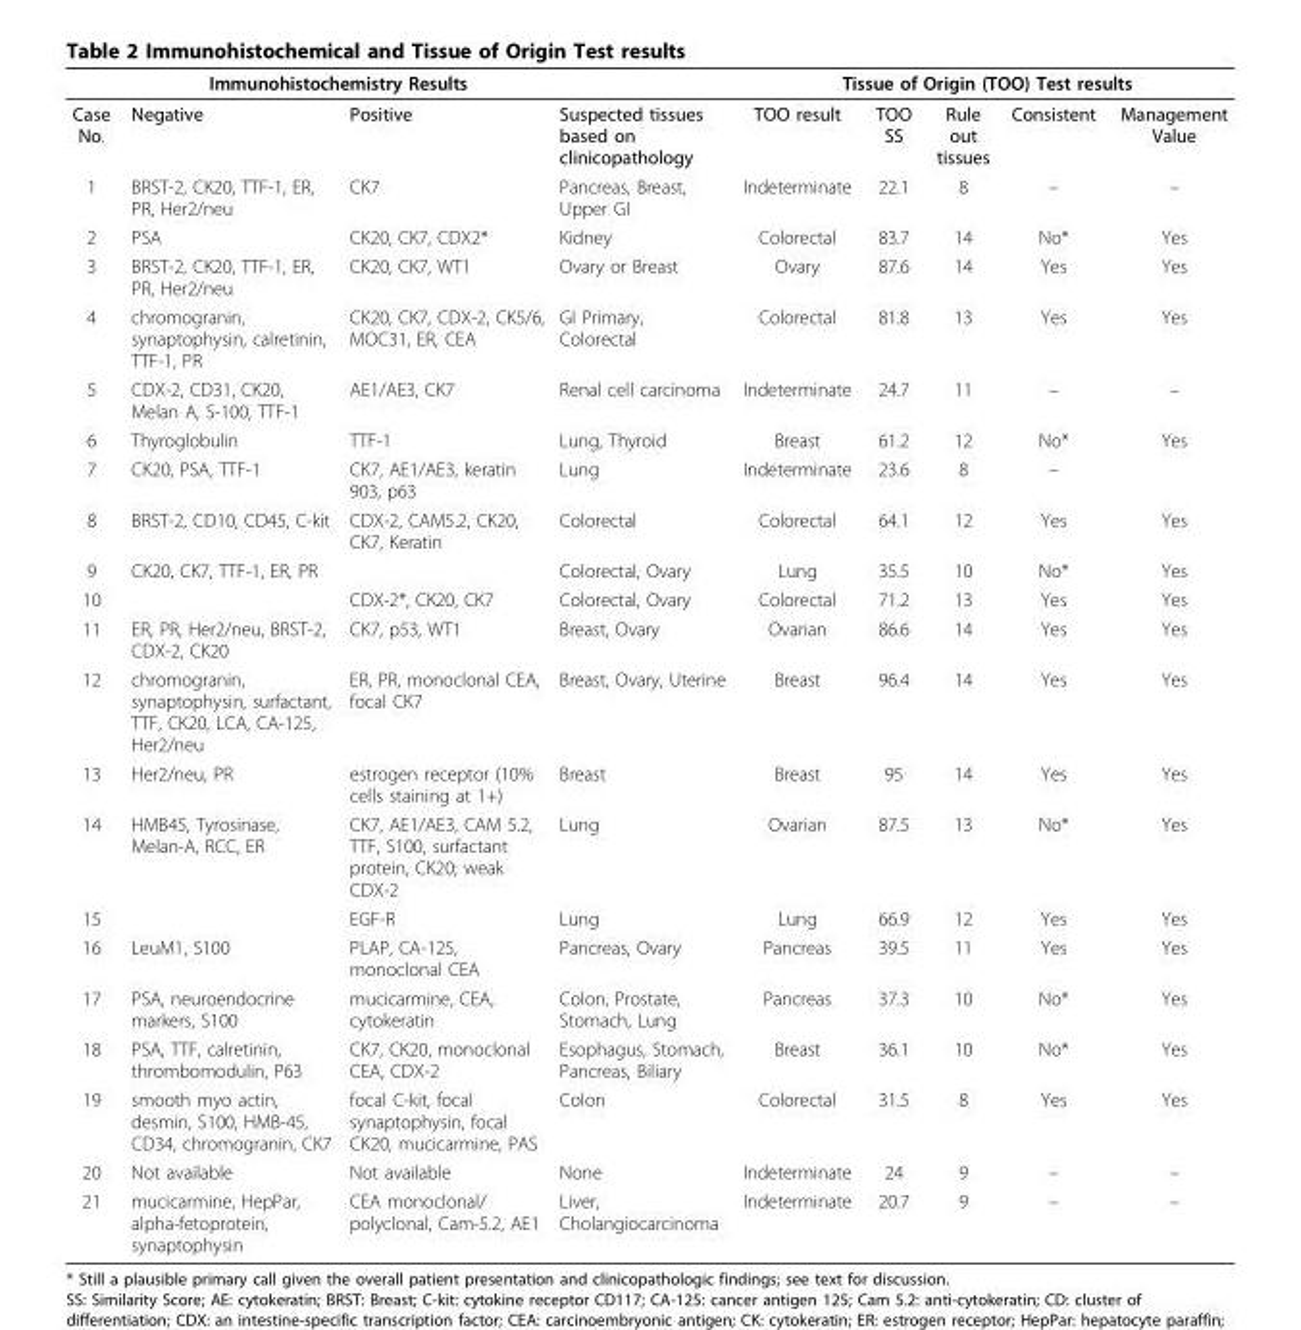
<table><thead><tr><td rowspan="2">Case No.</td><td colspan="2">Immunohistochemistry Results</td><td rowspan="2">Suspected tissues based on clinicopathology</td><td colspan="5">Tissue of Origin (TOO) Test results</td></tr><tr><td>Negative</td><td>Positive</td><td>TOO result</td><td>TOO SS</td><td>Rule out tissues</td><td>Consistent</td><td>Management Value</td></tr></thead><tbody><tr><td>1</td><td>BRST-2, CK20, TTF-1, ER, PR, Her2/neu</td><td>CK7</td><td>Pancreas, Breast, Upper GI</td><td>Indeterminate</td><td>22.1</td><td>8</td><td>–</td><td>–</td></tr><tr><td>2</td><td>PSA</td><td>CK20, CK7, CDX2*</td><td>Kidney</td><td>Colorectal</td><td>83.7</td><td>14</td><td>No*</td><td>Yes</td></tr><tr><td>3</td><td>BRST-2, CK20, TTF-1, ER, PR, Her2/neu</td><td>CK20, CK7, WT1</td><td>Ovary or Breast</td><td>Ovary</td><td>87.6</td><td>14</td><td>Yes</td><td>Yes</td></tr><tr><td>4</td><td>chromogranin, synaptophysin, calretinin, TTF-1, PR</td><td>CK20, CK7, CDX-2, CK5/6, MOC31, ER, CEA</td><td>GI Primary, Colorectal</td><td>Colorectal</td><td>81.8</td><td>13</td><td>Yes</td><td>Yes</td></tr><tr><td>5</td><td>CDX-2, CD31, CK20, Melan A, S-100, TTF-1</td><td>AE1/AE3, CK7</td><td>Renal cell carcinoma</td><td>Indeterminate</td><td>24.7</td><td>11</td><td>–</td><td>–</td></tr><tr><td>6</td><td>Thyroglobulin</td><td>TTF-1</td><td>Lung, Thyroid</td><td>Breast</td><td>61.2</td><td>12</td><td>No*</td><td>Yes</td></tr><tr><td>7</td><td>CK20, PSA, TTF-1</td><td>CK7, AE1/AE3, keratin 903, p63</td><td>Lung</td><td>Indeterminate</td><td>23.6</td><td>8</td><td>–</td><td></td></tr><tr><td>8</td><td>BRST-2, CD10, CD45, C-kit</td><td>CDX-2, CAM5.2, CK20, CK7, Keratin</td><td>Colorectal</td><td>Colorectal</td><td>64.1</td><td>12</td><td>Yes</td><td>Yes</td></tr><tr><td>9</td><td>CK20, CK7, TTF-1, ER, PR</td><td></td><td>Colorectal, Ovary</td><td>Lung</td><td>35.5</td><td>10</td><td>No*</td><td>Yes</td></tr><tr><td>10</td><td></td><td>CDX-2*, CK20, CK7</td><td>Colorectal, Ovary</td><td>Colorectal</td><td>71.2</td><td>13</td><td>Yes</td><td>Yes</td></tr><tr><td>11</td><td>ER, PR, Her2/neu, BRST-2, CDX-2, CK20</td><td>CK7, p53, WT1</td><td>Breast, Ovary</td><td>Ovarian</td><td>86.6</td><td>14</td><td>Yes</td><td>Yes</td></tr><tr><td>12</td><td>chromogranin, synaptophysin, surfactant, TTF, CK20, LCA, CA-125, Her2/neu</td><td>ER, PR, monoclonal CEA, focal CK7</td><td>Breast, Ovary, Uterine</td><td>Breast</td><td>96.4</td><td>14</td><td>Yes</td><td>Yes</td></tr><tr><td>13</td><td>Her2/neu, PR</td><td>estrogen receptor (10% cells staining at 1+)</td><td>Breast</td><td>Breast</td><td>95</td><td>14</td><td>Yes</td><td>Yes</td></tr><tr><td>14</td><td>HMB45, Tyrosinase, Melan-A, RCC, ER</td><td>CK7, AE1/AE3, CAM 5.2, TTF, S100, surfactant protein, CK20; weak CDX-2</td><td>Lung</td><td>Ovarian</td><td>87.5</td><td>13</td><td>No*</td><td>Yes</td></tr><tr><td>15</td><td></td><td>EGF-R</td><td>Lung</td><td>Lung</td><td>66.9</td><td>12</td><td>Yes</td><td>Yes</td></tr><tr><td>16</td><td>LeuM1, S100</td><td>PLAP, CA-125, monoclonal CEA</td><td>Pancreas, Ovary</td><td>Pancreas</td><td>39.5</td><td>11</td><td>Yes</td><td>Yes</td></tr><tr><td>17</td><td>PSA, neuroendocrine markers, S100</td><td>mucicarmine, CEA, cytokeratin</td><td>Colon, Prostate, Stomach, Lung</td><td>Pancreas</td><td>37.3</td><td>10</td><td>No*</td><td>Yes</td></tr><tr><td>18</td><td>PSA, TTF, calretinin, thrombomodulin, P63</td><td>CK7, CK20, monoclonal CEA, CDX-2</td><td>Esophagus, Stomach, Pancreas, Biliary</td><td>Breast</td><td>36.1</td><td>10</td><td>No*</td><td>Yes</td></tr><tr><td>19</td><td>smooth myo actin, desmin, S100, HMB-45, CD34, chromogranin, CK7</td><td>focal C-kit, focal synaptophysin, focal CK20, mucicarmine, PAS</td><td>Colon</td><td>Colorectal</td><td>31.5</td><td>8</td><td>Yes</td><td>Yes</td></tr><tr><td>20</td><td>Not available</td><td>Not available</td><td>None</td><td>Indeterminate</td><td>24</td><td>9</td><td>–</td><td>–</td></tr><tr><td>21</td><td>mucicarmine, HepPar, alpha-fetoprotein, synaptophysin</td><td>CEA monoclonal/ polyclonal, Cam-5.2, AE1</td><td>Liver, Cholangiocarcinoma</td><td>Indeterminate</td><td>20.7</td><td>9</td><td>–</td><td>–</td></tr></tbody></table>